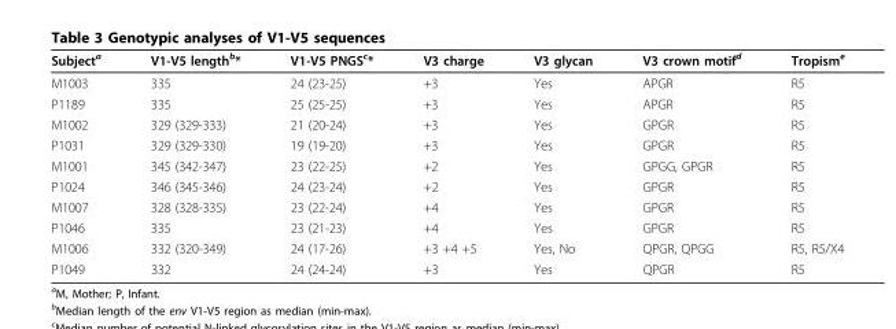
<table><thead><tr><td>Subject<sup>a</sup></td><td>V1-V5 length<sup>b</sup>*</td><td>V1-V5 PNGS<sup>c</sup>*</td><td>V3 charge</td><td>V3 glycan</td><td>V3 crown motif<sup>d</sup></td><td>Tropism<sup>e</sup></td></tr></thead><tbody><tr><td>M1003</td><td>335</td><td>24 (23-25)</td><td>+3</td><td>Yes</td><td>APGR</td><td>R5</td></tr><tr><td>P1189</td><td>335</td><td>25 (25-25)</td><td>+3</td><td>Yes</td><td>APGR</td><td>R5</td></tr><tr><td>M1002</td><td>329 (329-333)</td><td>21 (20-24)</td><td>+3</td><td>Yes</td><td>GPGR</td><td>R5</td></tr><tr><td>P1031</td><td>329 (329-330)</td><td>19 (19-20)</td><td>+3</td><td>Yes</td><td>GPGR</td><td>R5</td></tr><tr><td>M1001</td><td>345 (342-347)</td><td>23 (22-25)</td><td>+2</td><td>Yes</td><td>GPGG, GPGR</td><td>R5</td></tr><tr><td>P1024</td><td>346 (345-346)</td><td>24 (23-24)</td><td>+2</td><td>Yes</td><td>GPGR</td><td>R5</td></tr><tr><td>M1007</td><td>328 (328-335)</td><td>23 (22-24)</td><td>+4</td><td>Yes</td><td>GPGR</td><td>R5</td></tr><tr><td>P1046</td><td>335</td><td>23 (21-23)</td><td>+4</td><td>Yes</td><td>GPGR</td><td>R5</td></tr><tr><td>M1006</td><td>332 (320-349)</td><td>24 (17-26)</td><td>+3 +4 +5</td><td>Yes, No</td><td>QPGR, QPGG</td><td>R5, R5/X4</td></tr><tr><td>P1049</td><td>332</td><td>24 (24-24)</td><td>+3</td><td>Yes</td><td>QPGR</td><td>R5</td></tr></tbody></table>